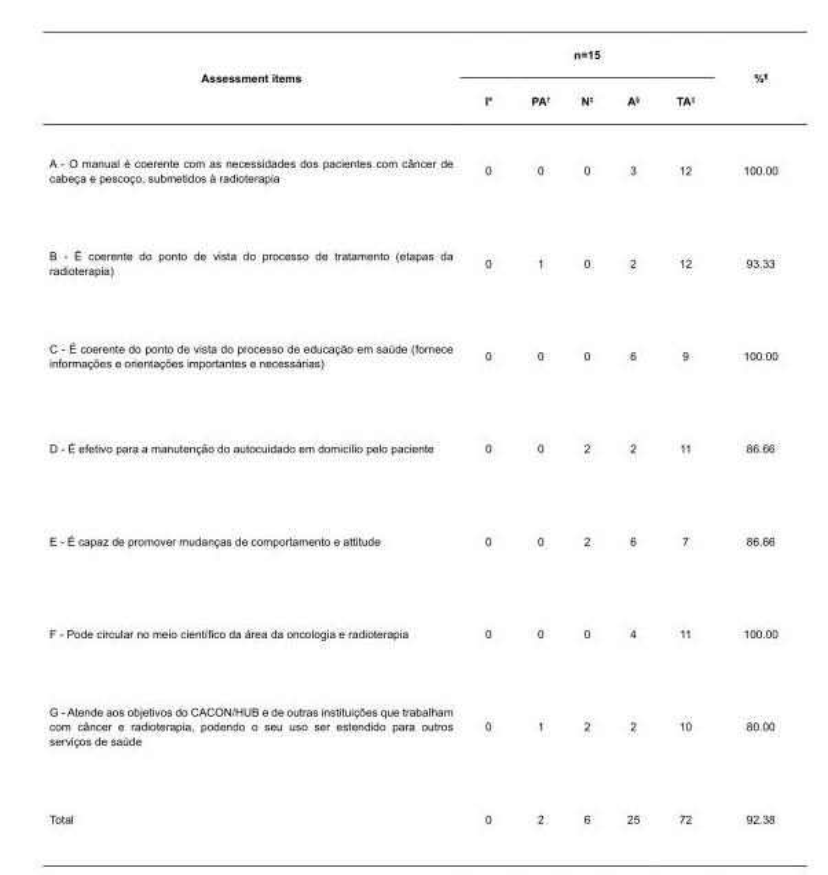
<table><tbody><tr><td rowspan="2">Assessment items</td><td colspan="4">n=15</td><td colspan="2">%<sup>¶</sup></td></tr><tr><td>I*</td><td>PA<sup>†</sup></td><td>N<sup>‡</sup></td><td>A<sup>§</sup></td><td>TA<sup>||</sup></td><td></td></tr><tr><td>A - O manual é coerente com as necessidades dos pacientes com câncer de cabeça e pescoço, submetidos à radioterapia</td><td>0</td><td>0</td><td>0</td><td>3</td><td>12</td><td>100.00</td></tr><tr><td>B - É coerente do ponto de vista do processo de tratamento (etapas da radioterapia)</td><td>0</td><td>1</td><td>0</td><td>2</td><td>12</td><td>93.33</td></tr><tr><td>C - É coerente do ponto de vista do processo de educação em saúde (fornece informações e orientações importantes e necessárias)</td><td>0</td><td>0</td><td>0</td><td>6</td><td>9</td><td>100.00</td></tr><tr><td>D - É efetivo para a manutenção do autocuidado em domicílio pelo paciente</td><td>0</td><td>0</td><td>2</td><td>2</td><td>11</td><td>86.66</td></tr><tr><td>E - É capaz de promover mudanças de comportamento e attitude</td><td>0</td><td>0</td><td>2</td><td>6</td><td>7</td><td>86.66</td></tr><tr><td>F - Pode circular no meio científico da área da oncologia e radioterapia</td><td>0</td><td>0</td><td>0</td><td>4</td><td>11</td><td>100.00</td></tr><tr><td>G - Atende aos objetivos do CACON/HUB e de outras instituições que trabalham com câncer e radioterapia, podendo o seu uso ser estendido para outros serviços de saúde</td><td>0</td><td>1</td><td>2</td><td>2</td><td>10</td><td>80.00</td></tr><tr><td>Total</td><td>0</td><td>2</td><td>6</td><td>25</td><td>72</td><td>92.38</td></tr></tbody></table>